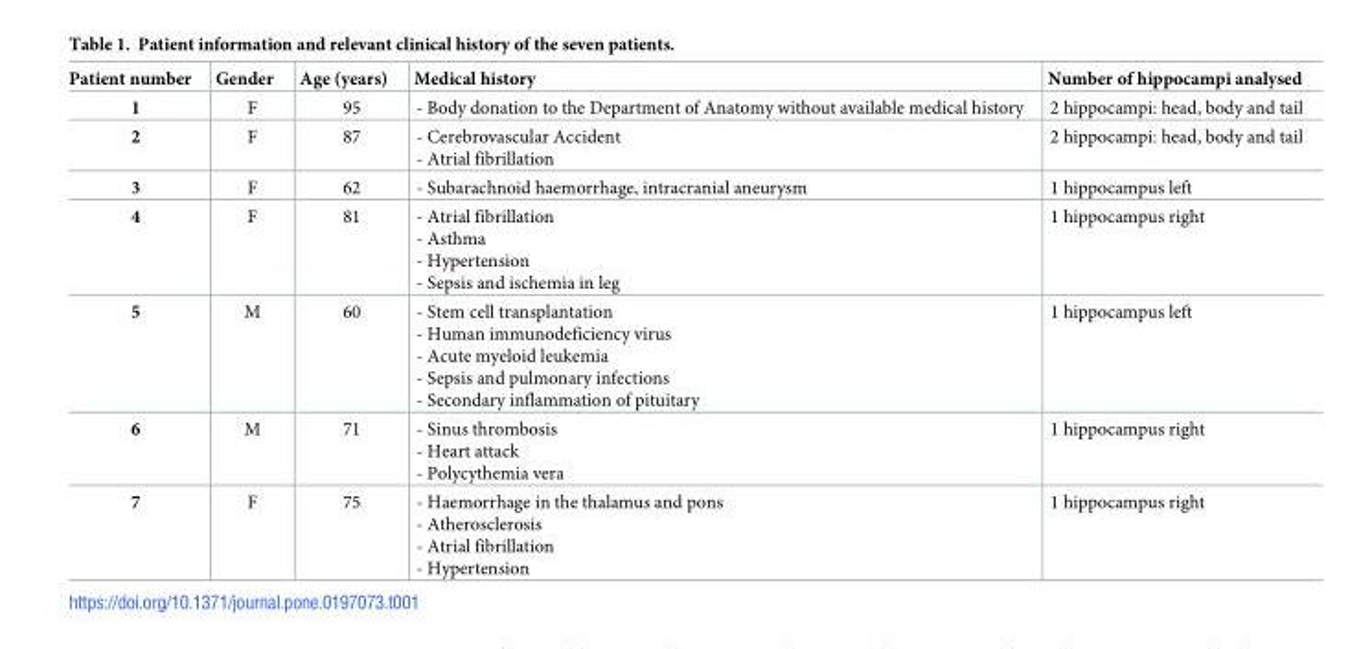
<table><thead><tr><td>Patient number</td><td>Gender</td><td>Age (years)</td><td>Medical history</td><td>Number of hippocampi analysed</td></tr></thead><tbody><tr><td>1</td><td>F</td><td>95</td><td>- Body donation to the Department of Anatomy without available medical history</td><td>2 hippocampi: head, body and tail</td></tr><tr><td>2</td><td>F</td><td>87</td><td>- Cerebrovascular Accident - Atrial fibrillation</td><td>2 hippocampi: head, body and tail</td></tr><tr><td>3</td><td>F</td><td>62</td><td>- Subarachnoid haemorrhage, intracranial aneurysm</td><td>1 hippocampus left</td></tr><tr><td>4</td><td>F</td><td>81</td><td>- Atrial fibrillation - Asthma - Hypertension - Sepsis and ischemia in leg</td><td>1 hippocampus right</td></tr><tr><td>5</td><td>M</td><td>60</td><td>- Stem cell transplantation - Human immunodeficiency virus - Acute myeloid leukemia - Sepsis and pulmonary infections - Secondary inflammation of pituitary</td><td>1 hippocampus left</td></tr><tr><td>6</td><td>M</td><td>71</td><td>- Sinus thrombosis - Heart attack - Polycythemia vera</td><td>1 hippocampus right</td></tr><tr><td>7</td><td>F</td><td>75</td><td>- Haemorrhage in the thalamus and pons - Atherosclerosis - Atrial fibrillation - Hypertension</td><td>1 hippocampus right</td></tr></tbody></table>